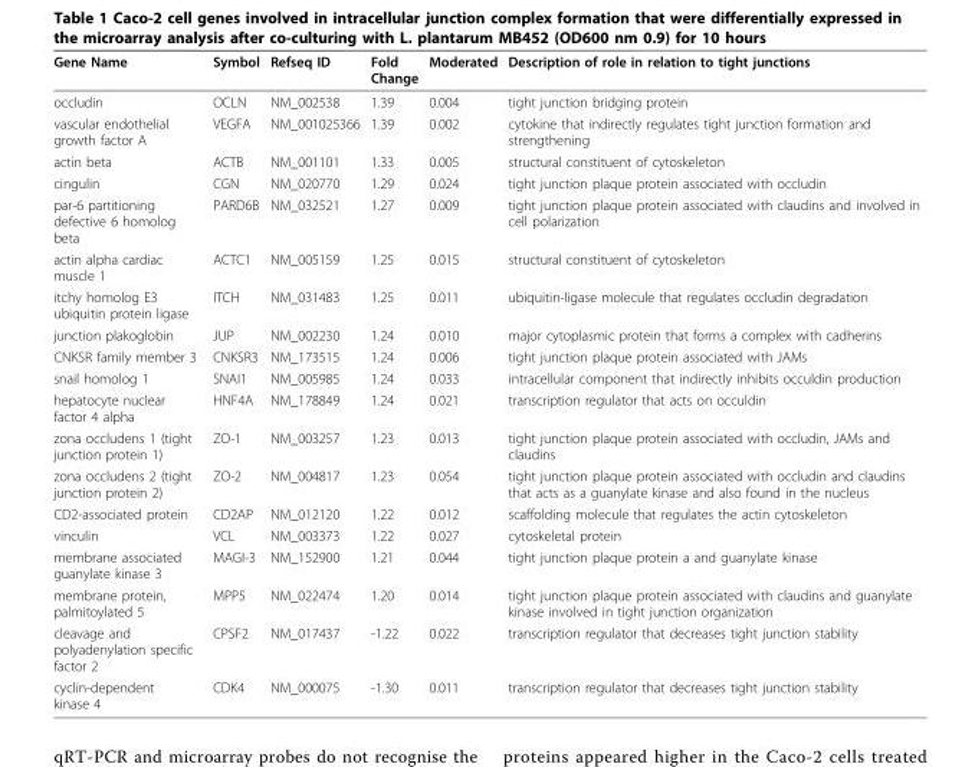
<table><thead><tr><td>Gene Name</td><td>Symbol</td><td>Refseq ID</td><td>Fold Change</td><td>Moderated</td><td>Description of role in relation to tight junctions</td></tr></thead><tbody><tr><td>occludin</td><td>OCLN</td><td>NM_002538</td><td>1.39</td><td>0.004</td><td>tight junction bridging protein</td></tr><tr><td>vascular endothelial growth factor A</td><td>VEGFA</td><td>NM_001025366</td><td>1.39</td><td>0.002</td><td>cytokine that indirectly regulates tight junction formation and strengthening</td></tr><tr><td>actin beta</td><td>ACTB</td><td>NM_001101</td><td>1.33</td><td>0.005</td><td>structural constituent of cytoskeleton</td></tr><tr><td>cingulin</td><td>CGN</td><td>NM_020770</td><td>1.29</td><td>0.024</td><td>tight junction plaque protein associated with occludin</td></tr><tr><td>par-6 partitioning defective 6 homolog beta</td><td>PARD6B</td><td>NM_032521</td><td>1.27</td><td>0.009</td><td>tight junction plaque protein associated with claudins and involved in cell polarization</td></tr><tr><td>actin alpha cardiac muscle 1</td><td>ACTC1</td><td>NM_005159</td><td>1.25</td><td>0.015</td><td>structural constituent of cytoskeleton</td></tr><tr><td>itchy homolog E3 ubiquitin protein ligase</td><td>ITCH</td><td>NM_031483</td><td>1.25</td><td>0.011</td><td>ubiquitin-ligase molecule that regulates occludin degradation</td></tr><tr><td>junction plakoglobin</td><td>JUP</td><td>NM_002230</td><td>1.24</td><td>0.010</td><td>major cytoplasmic protein that forms a complex with cadherins</td></tr><tr><td>CNKSR family member 3</td><td>CNKSR3</td><td>NM_173515</td><td>1.24</td><td>0.006</td><td>tight junction plaque protein associated with JAMs</td></tr><tr><td>snail homolog 1</td><td>SNAI1</td><td>NM_005985</td><td>1.24</td><td>0.033</td><td>intracellular component that indirectly inhibits occuldin production</td></tr><tr><td>hepatocyte nuclear factor 4 alpha</td><td>HNF4A</td><td>NM_178849</td><td>1.24</td><td>0.021</td><td>transcription regulator that acts on occuldin</td></tr><tr><td>zona occludens 1 (tight junction protein 1)</td><td>ZO-1</td><td>NM_003257</td><td>1.23</td><td>0.013</td><td>tight junction plaque protein associated with occludin, JAMs and claudins</td></tr><tr><td>zona occludens 2 (tight junction protein 2)</td><td>ZO-2</td><td>NM_004817</td><td>1.23</td><td>0.054</td><td>tight junction plaque protein associated with occludin and claudins that acts as a guanylate kinase and also found in the nucleus</td></tr><tr><td>CD2-associated protein</td><td>CD2AP</td><td>NM_012120</td><td>1.22</td><td>0.012</td><td>scaffolding molecule that regulates the actin cytoskeleton</td></tr><tr><td>vinculin</td><td>VCL</td><td>NM_003373</td><td>1.22</td><td>0.027</td><td>cytoskeletal protein</td></tr><tr><td>membrane associated guanylate kinase 3</td><td>MAGI-3</td><td>NM_152900</td><td>1.21</td><td>0.044</td><td>tight junction plaque protein a and guanylate kinase</td></tr><tr><td>membrane protein, palmitoylated 5</td><td>MPP5</td><td>NM_022474</td><td>1.20</td><td>0.014</td><td>tight junction plaque protein associated with claudins and guanylate kinase involved in tight junction organization</td></tr><tr><td>cleavage and polyadenylation specific factor 2</td><td>CPSF2</td><td>NM_017437</td><td>-1.22</td><td>0.022</td><td>transcription regulator that decreases tight junction stability</td></tr><tr><td>cyclin-dependent kinase 4</td><td>CDK4</td><td>NM_000075</td><td>-1.30</td><td>0.011</td><td>transcription regulator that decreases tight junction stability</td></tr></tbody></table>